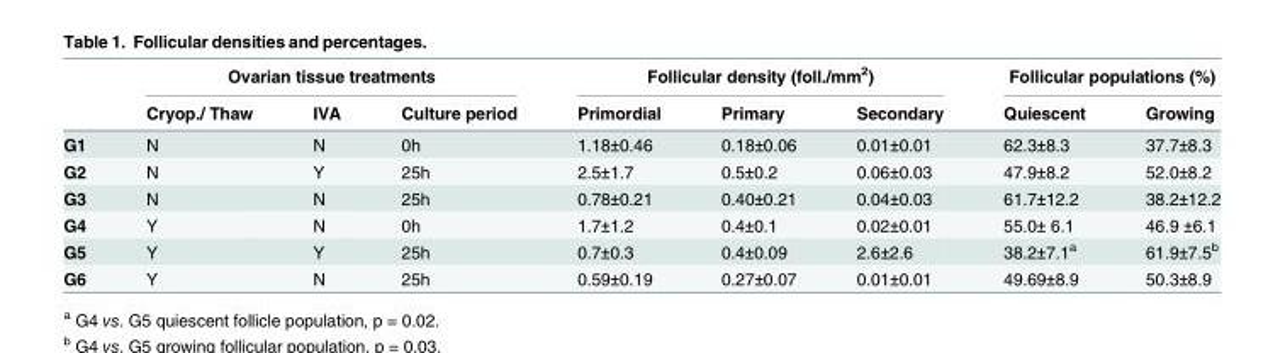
<table><thead><tr><td rowspan="2"></td><td colspan="3">Ovarian tissue treatments</td><td colspan="3">Follicular density (foll./mm<sup>2</sup>)</td><td colspan="2">Follicular populations (%)</td></tr><tr><td>Cryop./ Thaw</td><td>IVA</td><td>Culture period</td><td>Primordial</td><td>Primary</td><td>Secondary</td><td>Quiescent</td><td>Growing</td></tr></thead><tbody><tr><td>G1</td><td>N</td><td>N</td><td>0h</td><td>1.18±0.46</td><td>0.18±0.06</td><td>0.01±0.01</td><td>62.3±8.3</td><td>37.7±8.3</td></tr><tr><td>G2</td><td>N</td><td>Y</td><td>25h</td><td>2.5±1.7</td><td>0.5±0.2</td><td>0.06±0.03</td><td>47.9±8.2</td><td>52.0±8.2</td></tr><tr><td>G3</td><td>N</td><td>N</td><td>25h</td><td>0.78±0.21</td><td>0.40±0.21</td><td>0.04±0.03</td><td>61.7±12.2</td><td>38.2±12.2</td></tr><tr><td>G4</td><td>Y</td><td>N</td><td>0h</td><td>1.7±1.2</td><td>0.4±0.1</td><td>0.02±0.01</td><td>55.0± 6.1</td><td>46.9 ±6.1</td></tr><tr><td>G5</td><td>Y</td><td>Y</td><td>25h</td><td>0.7±0.3</td><td>0.4±0.09</td><td>2.6±2.6</td><td>38.2±7.1<sup>a</sup></td><td>61.9±7.5<sup>b</sup></td></tr><tr><td>G6</td><td>Y</td><td>N</td><td>25h</td><td>0.59±0.19</td><td>0.27±0.07</td><td>0.01±0.01</td><td>49.69±8.9</td><td>50.3±8.9</td></tr></tbody></table>